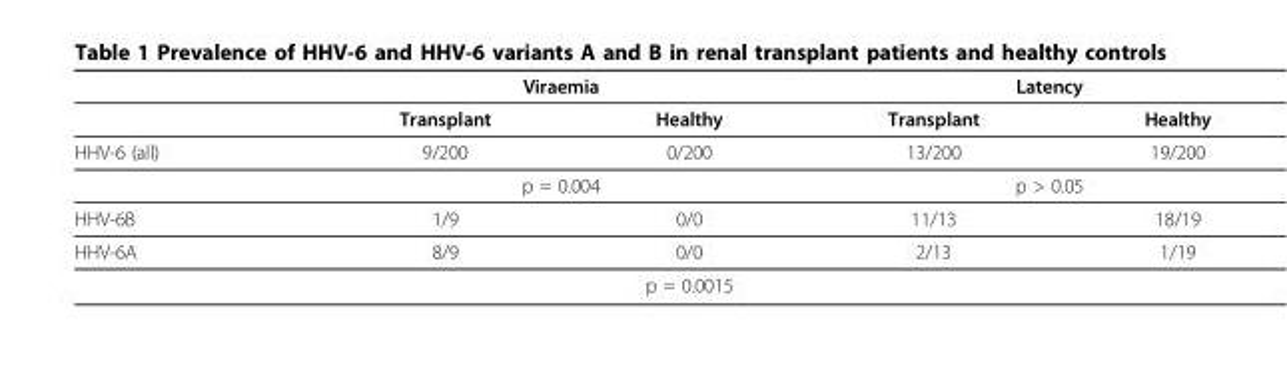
<table><thead><tr><td rowspan="2"></td><td colspan="2">Viraemia</td><td colspan="2">Latency</td></tr><tr><td>Transplant</td><td>Healthy</td><td>Transplant</td><td>Healthy</td></tr></thead><tbody><tr><td rowspan="2">HHV-6 (all)</td><td>9/200</td><td>0/200</td><td>13/200</td><td>19/200</td></tr><tr><td colspan="2">p = 0.004</td><td colspan="2">p &gt; 0.05</td></tr><tr><td>HHV-6B</td><td>1/9</td><td>0/0</td><td>11/13</td><td>18/19</td></tr><tr><td rowspan="2">HHV-6A</td><td>8/9</td><td>0/0</td><td>2/13</td><td>1/19</td></tr><tr><td colspan="3">p = 0.0015</td><td></td></tr></tbody></table>